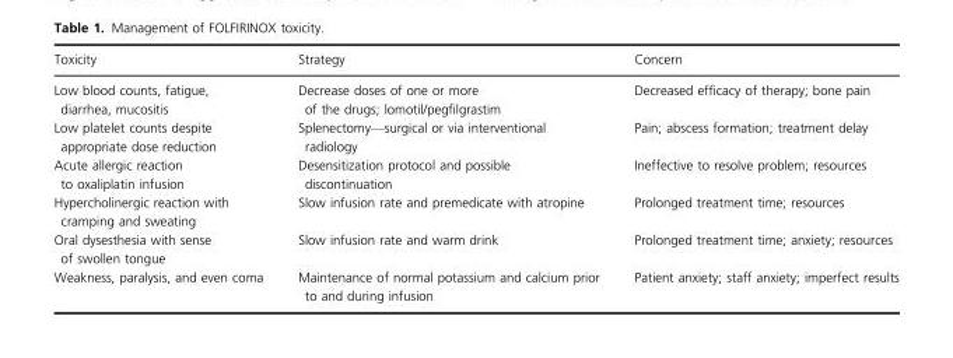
<table><thead><tr><td>Toxicity</td><td>Strategy</td><td>Concern</td></tr></thead><tbody><tr><td>Low blood counts, fatigue, diarrhea, mucositis</td><td>Decrease doses of one or more of the drugs; lomotil/pegfilgrastim</td><td>Decreased efficacy of therapy; bone pain</td></tr><tr><td>Low platelet counts despite appropriate dose reduction</td><td>Splenectomy—surgical or via interventional radiology</td><td>Pain; abscess formation; treatment delay</td></tr><tr><td>Acute allergic reaction to oxaliplatin infusion</td><td>Desensitization protocol and possible discontinuation</td><td>Ineffective to resolve problem; resources</td></tr><tr><td>Hypercholinergic reaction with cramping and sweating</td><td>Slow infusion rate and premedicate with atropine</td><td>Prolonged treatment time; resources</td></tr><tr><td>Oral dysesthesia with sense of swollen tongue</td><td>Slow infusion rate and warm drink</td><td>Prolonged treatment time; anxiety; resources</td></tr><tr><td>Weakness, paralysis, and even coma</td><td>Maintenance of normal potassium and calcium prior to and during infusion</td><td>Patient anxiety; staff anxiety; imperfect results</td></tr></tbody></table>